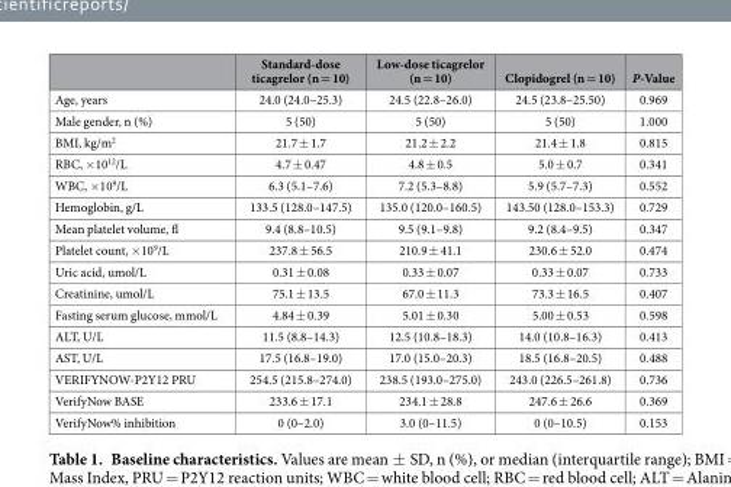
<table><thead><tr><td></td><td>Standard-dose ticagrelor (n = 10)</td><td>Low-dose ticagrelor (n = 10)</td><td>Clopidogrel (n = 10)</td><td>P-Value</td></tr></thead><tbody><tr><td>Age, years</td><td>24.0 (24.0–25.3)</td><td>24.5 (22.8–26.0)</td><td>24.5 (23.8–25.50)</td><td>0.969</td></tr><tr><td>Male gender, n (%)</td><td>5 (50)</td><td>5 (50)</td><td>5 (50)</td><td>1.000</td></tr><tr><td>BMI, kg/m<sup>2</sup></td><td>21.7 ± 1.7</td><td>21.2 ± 2.2</td><td>21.4 ± 1.8</td><td>0.815</td></tr><tr><td>RBC, × 10<sup>12</sup>/L</td><td>4.7 ± 0.47</td><td>4.8 ± 0.5</td><td>5.0 ± 0.7</td><td>0.341</td></tr><tr><td>WBC, × 10<sup>9</sup>/L</td><td>6.3 (5.1–7.6)</td><td>7.2 (5.3–8.8)</td><td>5.9 (5.7–7.3)</td><td>0.552</td></tr><tr><td>Hemoglobin, g/L</td><td>133.5 (128.0–147.5)</td><td>135.0 (120.0–160.5)</td><td>143.50 (128.0–153.3)</td><td>0.729</td></tr><tr><td>Mean platelet volume, fl</td><td>9.4 (8.8–10.5)</td><td>9.5 (9.1–9.8)</td><td>9.2 (8.4–9.5)</td><td>0.347</td></tr><tr><td>Platelet count, × 10<sup>9</sup>/L</td><td>237.8 ± 56.5</td><td>210.9 ± 41.1</td><td>230.6 ± 52.0</td><td>0.474</td></tr><tr><td>Uric acid, umol/L</td><td>0.31 ± 0.08</td><td>0.33 ± 0.07</td><td>0.33 ± 0.07</td><td>0.733</td></tr><tr><td>Creatinine, umol/L</td><td>75.1 ± 13.5</td><td>67.0 ± 11.3</td><td>73.3 ± 16.5</td><td>0.407</td></tr><tr><td>Fasting serum glucose, mmol/L</td><td>4.84 ± 0.39</td><td>5.01 ± 0.30</td><td>5.00 ± 0.53</td><td>0.598</td></tr><tr><td>ALT, U/L</td><td>11.5 (8.8–14.3)</td><td>12.5 (10.8–18.3)</td><td>14.0 (10.8–16.3)</td><td>0.413</td></tr><tr><td>AST, U/L</td><td>17.5 (16.8–19.0)</td><td>17.0 (15.0–20.3)</td><td>18.5 (16.8–20.5)</td><td>0.488</td></tr><tr><td>VERIFYNOW-P2Y12 PRU</td><td>254.5 (215.8–274.0)</td><td>238.5 (193.0–275.0)</td><td>243.0 (226.5–261.8)</td><td>0.736</td></tr><tr><td>VerifyNow BASE</td><td>233.6 ± 17.1</td><td>234.1 ± 28.8</td><td>247.6 ± 26.6</td><td>0.369</td></tr><tr><td>VerifyNow% inhibition</td><td>0 (0–2.0)</td><td>3.0 (0–11.5)</td><td>0 (0–10.5)</td><td>0.153</td></tr></tbody></table>